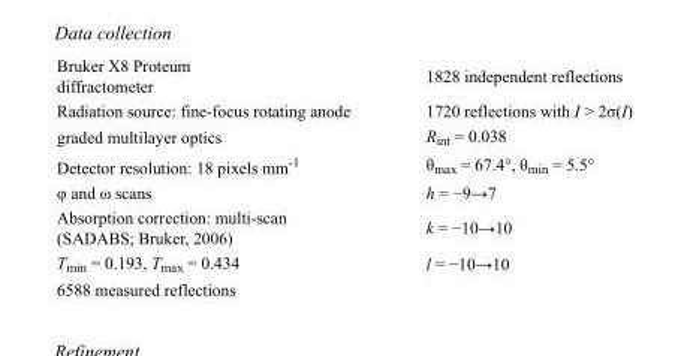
<table><tbody><tr><td>Bruker X8 Proteum diffractometer</td><td>1828 independent reflections</td></tr><tr><td>Radiation source: fine-focus rotating anode</td><td>1720 reflections with I &gt; 2σ(I)</td></tr><tr><td>graded multilayer optics</td><td>R<sub>int</sub> = 0.038</td></tr><tr><td>Detector resolution: 18 pixels mm<sup>-1</sup></td><td>θ<sub>max</sub> = 67.4°, θ<sub>min</sub> = 5.5°</td></tr><tr><td>φ and ω scans</td><td>h = −9→7</td></tr><tr><td>Absorption correction: multi-scan (SADABS; Bruker, 2006)</td><td>k = −10→10</td></tr><tr><td>T<sub>min</sub> = 0.193, T<sub>max</sub> = 0.434</td><td>l = −10→10</td></tr><tr><td>6588 measured reflections</td><td></td></tr></tbody></table>